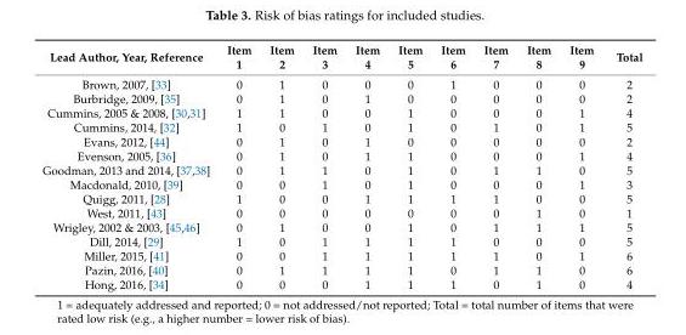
<table><thead><tr><td>Lead Author, Year, Reference</td><td>Item 1</td><td>Item 2</td><td>Item 3</td><td>Item 4</td><td>Item 5</td><td>Item 6</td><td>Item 7</td><td>Item 8</td><td>Item 9</td><td>Total</td></tr></thead><tbody><tr><td>Brown, 2007, [33]</td><td>0</td><td>1</td><td>0</td><td>0</td><td>0</td><td>1</td><td>0</td><td>0</td><td>0</td><td>2</td></tr><tr><td>Burbridge, 2009, [35]</td><td>0</td><td>1</td><td>0</td><td>1</td><td>0</td><td>0</td><td>0</td><td>0</td><td>0</td><td>2</td></tr><tr><td>Cummins, 2005 &amp; 2008, [30,31]</td><td>1</td><td>1</td><td>0</td><td>0</td><td>1</td><td>0</td><td>0</td><td>0</td><td>1</td><td>4</td></tr><tr><td>Cummins, 2014, [32]</td><td>1</td><td>0</td><td>1</td><td>0</td><td>1</td><td>0</td><td>1</td><td>0</td><td>1</td><td>5</td></tr><tr><td>Evans, 2012, [44]</td><td>0</td><td>1</td><td>0</td><td>1</td><td>0</td><td>0</td><td>0</td><td>0</td><td>0</td><td>2</td></tr><tr><td>Evenson, 2005, [36]</td><td>0</td><td>1</td><td>0</td><td>1</td><td>1</td><td>0</td><td>0</td><td>0</td><td>1</td><td>4</td></tr><tr><td>Goodman, 2013 and 2014, [37,38]</td><td>0</td><td>1</td><td>1</td><td>0</td><td>1</td><td>0</td><td>1</td><td>1</td><td>0</td><td>5</td></tr><tr><td>Macdonald, 2010, [39]</td><td>0</td><td>0</td><td>1</td><td>0</td><td>1</td><td>0</td><td>0</td><td>0</td><td>1</td><td>3</td></tr><tr><td>Quigg, 2011, [28]</td><td>1</td><td>0</td><td>0</td><td>1</td><td>1</td><td>1</td><td>1</td><td>0</td><td>0</td><td>5</td></tr><tr><td>West, 2011, [43]</td><td>0</td><td>0</td><td>0</td><td>0</td><td>0</td><td>0</td><td>0</td><td>1</td><td>0</td><td>1</td></tr><tr><td>Wrigley, 2002 &amp; 2003, [45,46]</td><td>0</td><td>1</td><td>0</td><td>0</td><td>1</td><td>0</td><td>1</td><td>1</td><td>1</td><td>5</td></tr><tr><td>Dill, 2014, [29]</td><td>1</td><td>0</td><td>1</td><td>1</td><td>1</td><td>1</td><td>0</td><td>0</td><td>0</td><td>5</td></tr><tr><td>Miller, 2015, [41]</td><td>0</td><td>0</td><td>1</td><td>1</td><td>1</td><td>1</td><td>1</td><td>0</td><td>1</td><td>6</td></tr><tr><td>Pazin, 2016, [40]</td><td>0</td><td>1</td><td>1</td><td>1</td><td>1</td><td>0</td><td>1</td><td>1</td><td>0</td><td>6</td></tr><tr><td>Hong, 2016, [34]</td><td>0</td><td>0</td><td>0</td><td>1</td><td>1</td><td>1</td><td>0</td><td>1</td><td>0</td><td>4</td></tr></tbody></table>